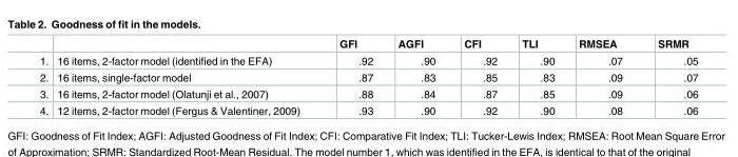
<table><thead><tr><td></td><td></td><td>GFI</td><td>AGFI</td><td>CFI</td><td>TLI</td><td>RMSEA</td><td>SRMR</td></tr></thead><tbody><tr><td>1.</td><td>16 items, 2-factor model (identified in the EFA)</td><td>.92</td><td>.90</td><td>.92</td><td>.90</td><td>.07</td><td>.05</td></tr><tr><td>2.</td><td>16 items, single-factor model</td><td>.87</td><td>.83</td><td>.85</td><td>.83</td><td>.09</td><td>.07</td></tr><tr><td>3.</td><td>16 items, 2-factor model (Olatunji et al., 2007)</td><td>.88</td><td>.84</td><td>.87</td><td>.85</td><td>.09</td><td>.06</td></tr><tr><td>4.</td><td>12 items, 2-factor model (Fergus &amp; Valentiner, 2009)</td><td>.93</td><td>.90</td><td>.92</td><td>.90</td><td>.08</td><td>.06</td></tr></tbody></table>